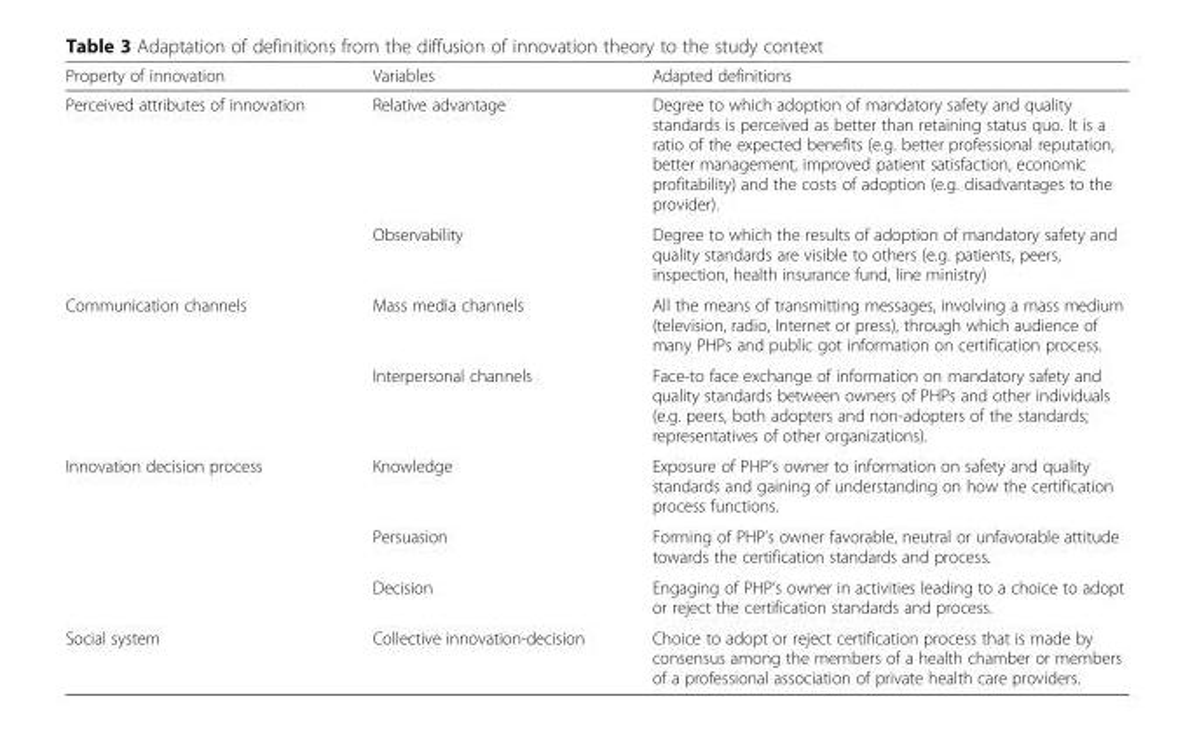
<table><thead><tr><td>Property of innovation</td><td>Variables</td><td>Adapted definitions</td></tr></thead><tbody><tr><td rowspan="2">Perceived attributes of innovation</td><td>Relative advantage</td><td>Degree to which adoption of mandatory safety and quality standards is perceived as better than retaining status quo. It is a ratio of the expected benefits (e.g. better professional reputation, better management, improved patient satisfaction, economic profitability) and the costs of adoption (e.g. disadvantages to the provider).</td></tr><tr><td>Observability</td><td>Degree to which the results of adoption of mandatory safety and quality standards are visible to others (e.g. patients, peers, inspection, health insurance fund, line ministry)</td></tr><tr><td rowspan="2">Communication channels</td><td>Mass media channels</td><td>All the means of transmitting messages, involving a mass medium (television, radio, Internet or press), through which audience of many PHPs and public got information on certification process.</td></tr><tr><td>Interpersonal channels</td><td>Face-to face exchange of information on mandatory safety and quality standards between owners of PHPs and other individuals (e.g. peers, both adopters and non-adopters of the standards; representatives of other organizations).</td></tr><tr><td rowspan="3">Innovation decision process</td><td>Knowledge</td><td>Exposure of PHP’s owner to information on safety and quality standards and gaining of understanding on how the certification process functions.</td></tr><tr><td>Persuasion</td><td>Forming of PHP’s owner favorable, neutral or unfavorable attitude towards the certification standards and process.</td></tr><tr><td>Decision</td><td>Engaging of PHP’s owner in activities leading to a choice to adopt or reject the certification standards and process.</td></tr><tr><td>Social system</td><td>Collective innovation-decision</td><td>Choice to adopt or reject certification process that is made by consensus among the members of a health chamber or members of a professional association of private health care providers.</td></tr></tbody></table>